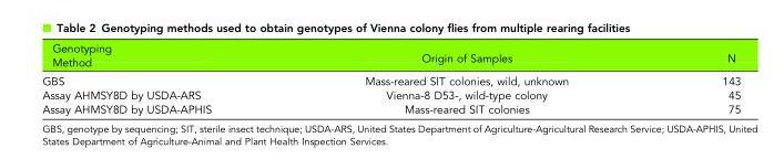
<table><thead><tr><td>Genotyping Method</td><td>Origin of Samples</td><td>N</td></tr></thead><tbody><tr><td>GBS</td><td>Mass-reared SIT colonies, wild, unknown</td><td>143</td></tr><tr><td>Assay AHMSY8D by USDA-ARS</td><td>Vienna-8 D53-, wild-type colony</td><td>45</td></tr><tr><td>Assay AHMSY8D by USDA-APHIS</td><td>Mass-reared SIT colonies</td><td>75</td></tr></tbody></table>